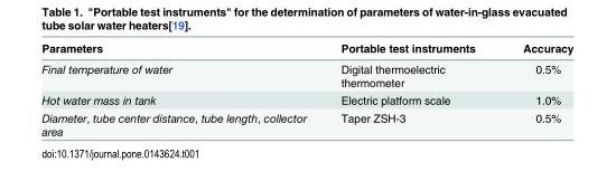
<table><thead><tr><td>Parameters</td><td>Portable test instruments</td><td>Accuracy</td></tr></thead><tbody><tr><td>Final temperature of water</td><td>Digital thermoelectric thermometer</td><td>0.5%</td></tr><tr><td>Hot water mass in tank</td><td>Electric platform scale</td><td>1.0%</td></tr><tr><td>Diameter, tube center distance, tube length, collector area</td><td>Taper ZSH-3</td><td>0.5%</td></tr></tbody></table>